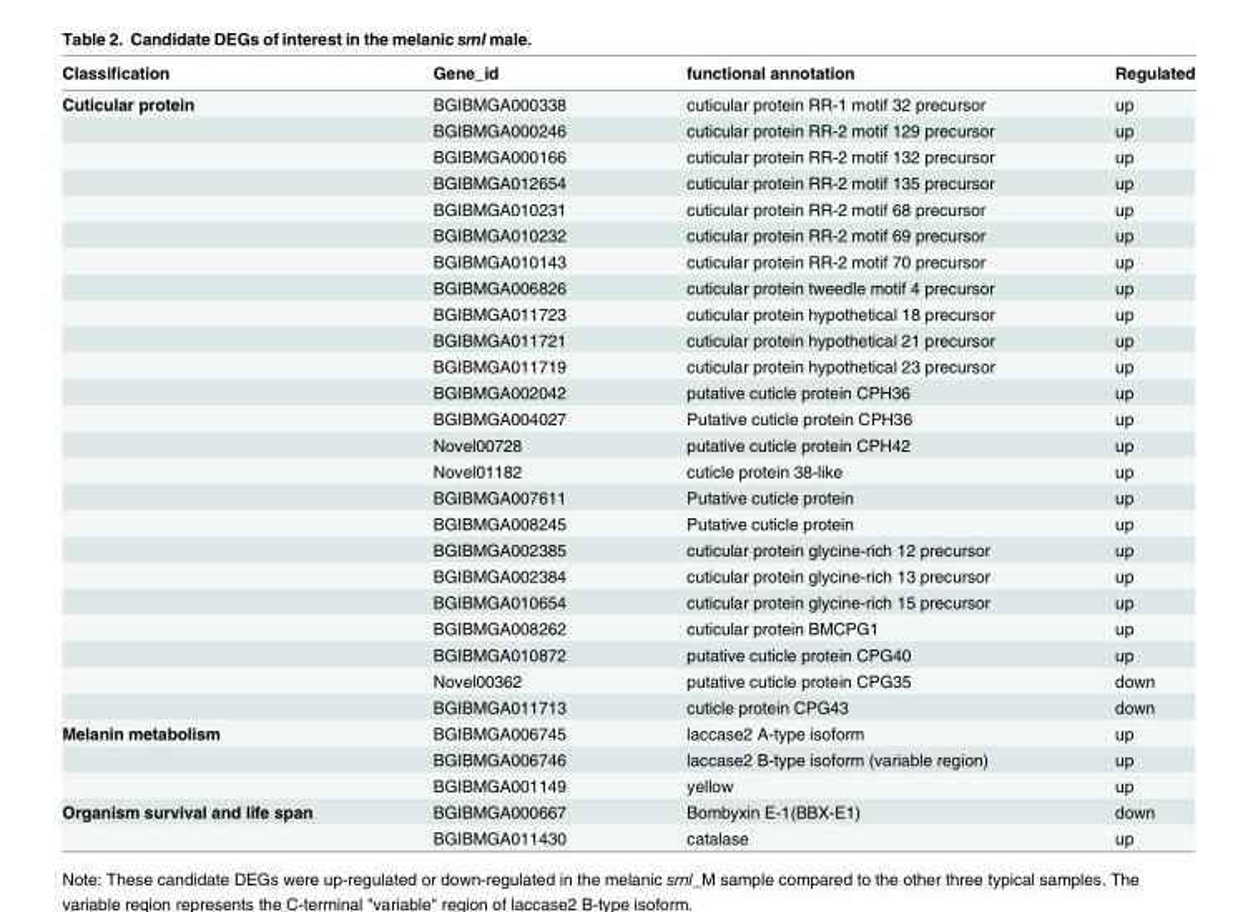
<table><thead><tr><td>Classification</td><td>Gene_id</td><td>functional annotation</td><td>Regulated</td></tr></thead><tbody><tr><td rowspan="24">Cuticular protein</td><td>BGIBMGA000338</td><td>cuticular protein RR-1 motif 32 precursor</td><td>up</td></tr><tr><td>BGIBMGA000246</td><td>cuticular protein RR-2 motif 129 precursor</td><td>up</td></tr><tr><td>BGIBMGA000166</td><td>cuticular protein RR-2 motif 132 precursor</td><td>up</td></tr><tr><td>BGIBMGA012654</td><td>cuticular protein RR-2 motif 135 precursor</td><td>up</td></tr><tr><td>BGIBMGA010231</td><td>cuticular protein RR-2 motif 68 precursor</td><td>up</td></tr><tr><td>BGIBMGA010232</td><td>cuticular protein RR-2 motif 69 precursor</td><td>up</td></tr><tr><td>BGIBMGA010143</td><td>cuticular protein RR-2 motif 70 precursor</td><td>up</td></tr><tr><td>BGIBMGA006826</td><td>cuticular protein tweedle motif 4 precursor</td><td>up</td></tr><tr><td>BGIBMGA011723</td><td>cuticular protein hypothetical 18 precursor</td><td>up</td></tr><tr><td>BGIBMGA011721</td><td>cuticular protein hypothetical 21 precursor</td><td>up</td></tr><tr><td>BGIBMGA011719</td><td>cuticular protein hypothetical 23 precursor</td><td>up</td></tr><tr><td>BGIBMGA002042</td><td>putative cuticle protein CPH36</td><td>up</td></tr><tr><td>BGIBMGA004027</td><td>Putative cuticle protein CPH36</td><td>up</td></tr><tr><td>Novel00728</td><td>putative cuticle protein CPH42</td><td>up</td></tr><tr><td>Novel01182</td><td>cuticle protein 38-like</td><td>up</td></tr><tr><td>BGIBMGA007611</td><td>Putative cuticle protein</td><td>up</td></tr><tr><td>BGIBMGA008245</td><td>Putative cuticle protein</td><td>up</td></tr><tr><td>BGIBMGA002385</td><td>cuticular protein glycine-rich 12 precursor</td><td>up</td></tr><tr><td>BGIBMGA002384</td><td>cuticular protein glycine-rich 13 precursor</td><td>up</td></tr><tr><td>BGIBMGA010654</td><td>cuticular protein glycine-rich 15 precursor</td><td>up</td></tr><tr><td>BGIBMGA008262</td><td>cuticular protein BMCPG1</td><td>up</td></tr><tr><td>BGIBMGA010872</td><td>putative cuticle protein CPG40</td><td>up</td></tr><tr><td>Novel00362</td><td>putative cuticle protein CPG35</td><td>down</td></tr><tr><td>BGIBMGA011713</td><td>cuticle protein CPG43</td><td>down</td></tr><tr><td rowspan="3">Melanin metabolism</td><td>BGIBMGA006745</td><td>laccase2 A-type isoform</td><td>up</td></tr><tr><td>BGIBMGA006746</td><td>laccase2 B-type isoform (variable region)</td><td>up</td></tr><tr><td>BGIBMGA001149</td><td>yellow</td><td>up</td></tr><tr><td rowspan="2">Organism survival and life span</td><td>BGIBMGA000667</td><td>Bombyxin E-1(BBX-E1)</td><td>down</td></tr><tr><td>BGIBMGA011430</td><td>catalase</td><td>up</td></tr></tbody></table>